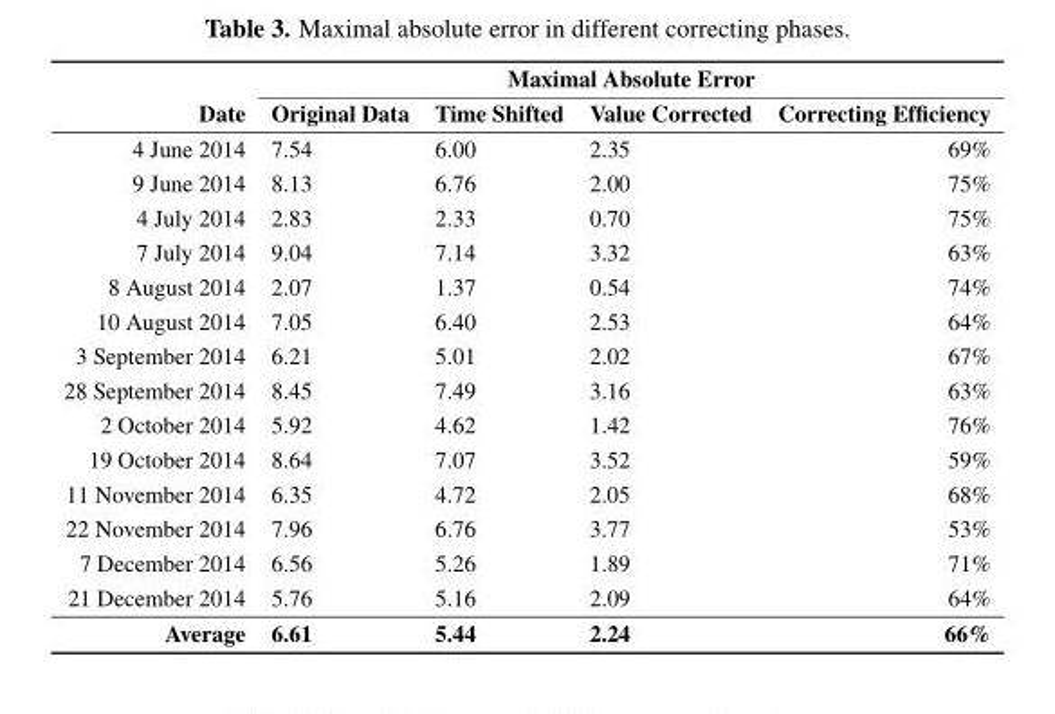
<table><thead><tr><td rowspan="2">Date</td><td colspan="4">Maximal Absolute Error</td></tr><tr><td>Original Data</td><td>Time Shifted</td><td>Value Corrected</td><td>Correcting Efficiency</td></tr></thead><tbody><tr><td>4 June 2014</td><td>7.54</td><td>6.00</td><td>2.35</td><td>69%</td></tr><tr><td>9 June 2014</td><td>8.13</td><td>6.76</td><td>2.00</td><td>75%</td></tr><tr><td>4 July 2014</td><td>2.83</td><td>2.33</td><td>0.70</td><td>75%</td></tr><tr><td>7 July 2014</td><td>9.04</td><td>7.14</td><td>3.32</td><td>63%</td></tr><tr><td>8 August 2014</td><td>2.07</td><td>1.37</td><td>0.54</td><td>74%</td></tr><tr><td>10 August 2014</td><td>7.05</td><td>6.40</td><td>2.53</td><td>64%</td></tr><tr><td>3 September 2014</td><td>6.21</td><td>5.01</td><td>2.02</td><td>67%</td></tr><tr><td>28 September 2014</td><td>8.45</td><td>7.49</td><td>3.16</td><td>63%</td></tr><tr><td>2 October 2014</td><td>5.92</td><td>4.62</td><td>1.42</td><td>76%</td></tr><tr><td>19 October 2014</td><td>8.64</td><td>7.07</td><td>3.52</td><td>59%</td></tr><tr><td>11 November 2014</td><td>6.35</td><td>4.72</td><td>2.05</td><td>68%</td></tr><tr><td>22 November 2014</td><td>7.96</td><td>6.76</td><td>3.77</td><td>53%</td></tr><tr><td>7 December 2014</td><td>6.56</td><td>5.26</td><td>1.89</td><td>71%</td></tr><tr><td>21 December 2014</td><td>5.76</td><td>5.16</td><td>2.09</td><td>64%</td></tr><tr><td>Average</td><td>6.61</td><td>5.44</td><td>2.24</td><td>66%</td></tr></tbody></table>